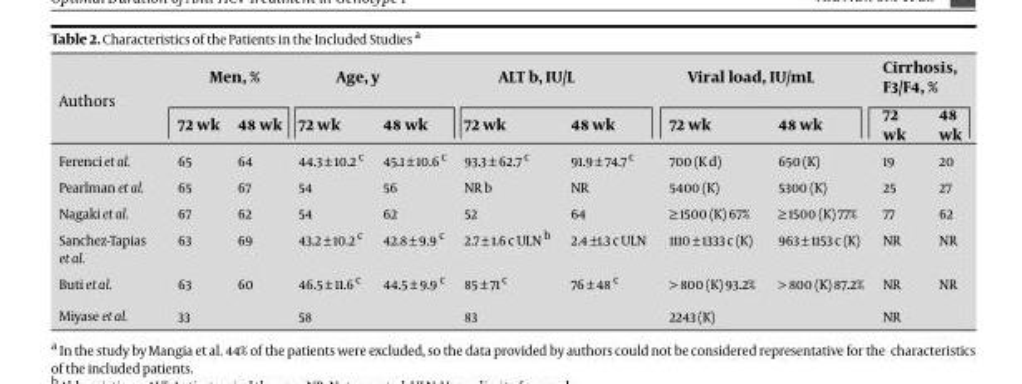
<table><thead><tr><td rowspan="2">Authors</td><td colspan="2">Men, %</td><td colspan="2">Age, y</td><td colspan="2">ALT b, IU/L</td><td colspan="2">Viral load, IU/mL</td><td colspan="2">Cirrhosis, F3/F4, %</td></tr><tr><td>72 wk</td><td>48 wk</td><td>72 wk</td><td>48 wk</td><td>72 wk</td><td>48 wk</td><td>72 wk</td><td>48 wk</td><td>72 wk</td><td>48 wk</td></tr></thead><tbody><tr><td>Ferenci et al.</td><td>65</td><td>64</td><td>44.3 ± 10.2 c</td><td>45.1 ± 10.6 c</td><td>93.3 ± 62.7 c</td><td>91.9 ± 74.7 c</td><td>700 (K d)</td><td>650 (K)</td><td>19</td><td>20</td></tr><tr><td>Pearlman et al.</td><td>65</td><td>67</td><td>54</td><td>56</td><td>NR b</td><td>NR</td><td>5400 (K)</td><td>5300 (K)</td><td>25</td><td>27</td></tr><tr><td>Nagaki et al.</td><td>67</td><td>62</td><td>54</td><td>62</td><td>52</td><td>64</td><td>≥ 1500 (K) 67%</td><td>≥ 1500 (K) 77%</td><td>77</td><td>62</td></tr><tr><td>Sanchez-Tapias et al.</td><td>63</td><td>69</td><td>43.2 ± 10.2 c</td><td>42.8 ± 9.9 c</td><td>2.7 ± 1.6 c ULN b</td><td>2.4 ±1.3 c ULN</td><td>1110 ± 1333 c (K)</td><td>963 ± 1153 c (K)</td><td>NR</td><td>NR</td></tr><tr><td>Buti et al.</td><td>63</td><td>60</td><td>46.5 ± 11.6 c</td><td>44.5 ± 9.9 c</td><td>85 ± 71 c</td><td>76 ± 48 c</td><td>&gt; 800 (K) 93.2%</td><td>&gt; 800 (K) 87.2%</td><td>NR</td><td>NR</td></tr><tr><td>Miyase et al.</td><td colspan="2">33</td><td colspan="2">58</td><td colspan="2">83</td><td colspan="2">2243 (K)</td><td colspan="2">NR</td></tr></tbody></table>